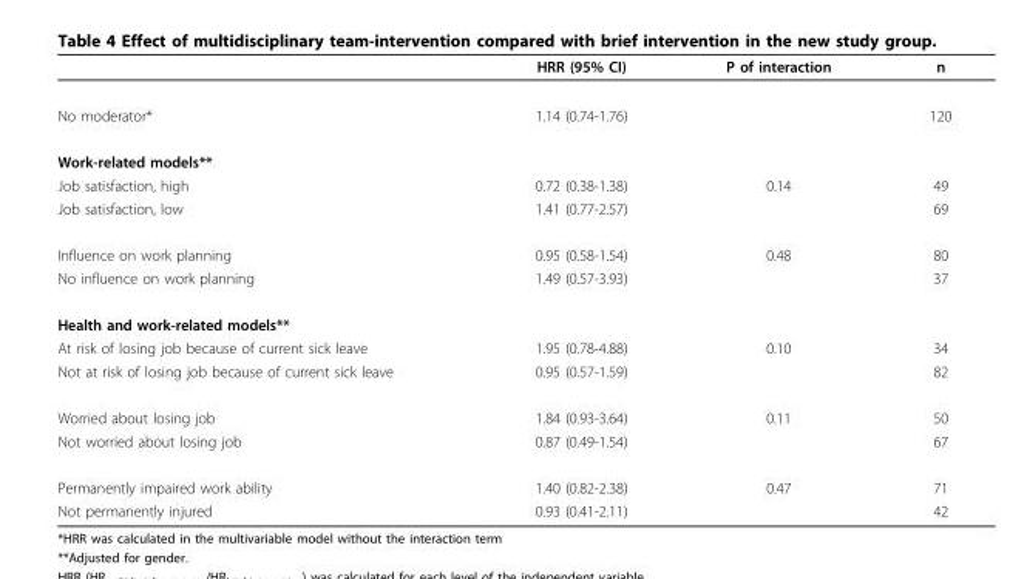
<table><thead><tr><td></td><td>HRR (95% CI)</td><td>P of interaction</td><td>n</td></tr></thead><tbody><tr><td>No moderator*</td><td>1.14 (0.74-1.76)</td><td></td><td>120</td></tr><tr><td colspan="4">Work-related models**</td></tr><tr><td>Job satisfaction, high</td><td>0.72 (0.38-1.38)</td><td>0.14</td><td>49</td></tr><tr><td>Job satisfaction, low</td><td>1.41 (0.77-2.57)</td><td></td><td>69</td></tr><tr><td>Influence on work planning</td><td>0.95 (0.58-1.54)</td><td>0.48</td><td>80</td></tr><tr><td>No influence on work planning</td><td>1.49 (0.57-3.93)</td><td></td><td>37</td></tr><tr><td colspan="4">Health and work-related models**</td></tr><tr><td>At risk of losing job because of current sick leave</td><td>1.95 (0.78-4.88)</td><td>0.10</td><td>34</td></tr><tr><td>Not at risk of losing job because of current sick leave</td><td>0.95 (0.57-1.59)</td><td></td><td>82</td></tr><tr><td>Worried about losing job</td><td>1.84 (0.93-3.64)</td><td>0.11</td><td>50</td></tr><tr><td>Not worried about losing job</td><td>0.87 (0.49-1.54)</td><td></td><td>67</td></tr><tr><td>Permanently impaired work ability</td><td>1.40 (0.82-2.38)</td><td>0.47</td><td>71</td></tr><tr><td>Not permanently injured</td><td>0.93 (0.41-2.11)</td><td></td><td>42</td></tr></tbody></table>